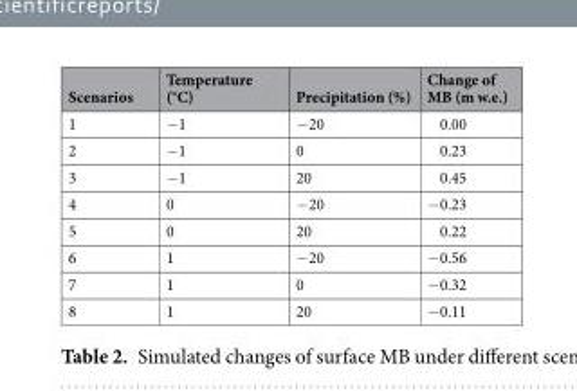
<table><thead><tr><td>Scenarios</td><td>Temperature (°C)</td><td>Precipitation (%)</td><td>Change of MB (m w.e.)</td></tr></thead><tbody><tr><td>1</td><td>−1</td><td>−20</td><td>0.00</td></tr><tr><td>2</td><td>−1</td><td>0</td><td>0.23</td></tr><tr><td>3</td><td>−1</td><td>20</td><td>0.45</td></tr><tr><td>4</td><td>0</td><td>−20</td><td>−0.23</td></tr><tr><td>5</td><td>0</td><td>20</td><td>0.22</td></tr><tr><td>6</td><td>1</td><td>−20</td><td>−0.56</td></tr><tr><td>7</td><td>1</td><td>0</td><td>−0.32</td></tr><tr><td>8</td><td>1</td><td>20</td><td>−0.11</td></tr></tbody></table>